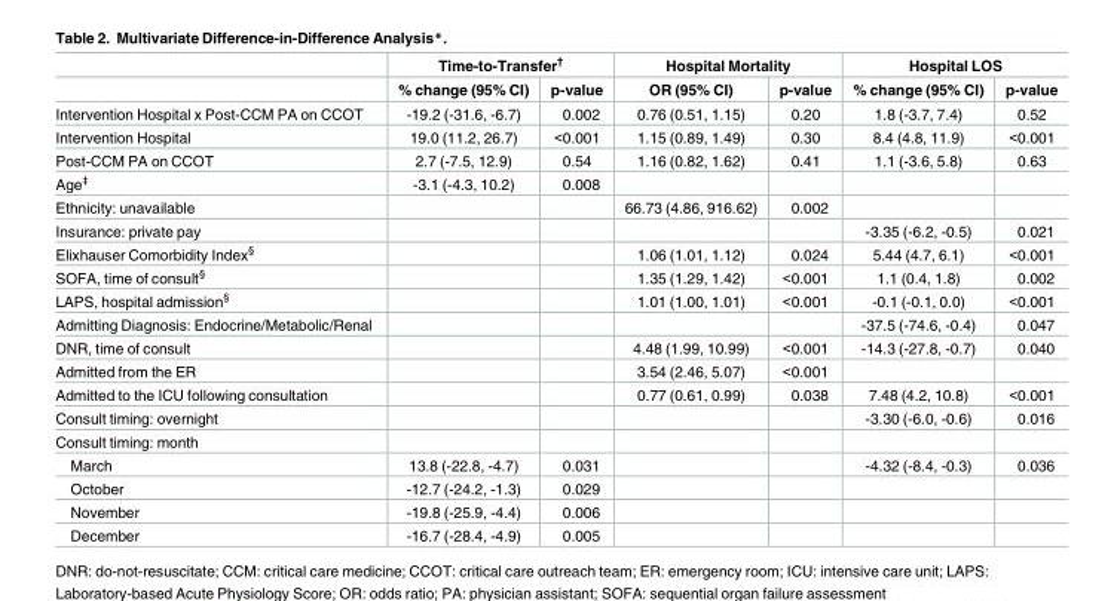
<table><thead><tr><td rowspan="2"></td><td colspan="2">Time-to-Transfer<sup>†</sup></td><td colspan="2">Hospital Mortality</td><td colspan="2">Hospital LOS</td></tr><tr><td>% change (95% CI)</td><td>p-value</td><td>OR (95% CI)</td><td>p-value</td><td>% change (95% CI)</td><td>p-value</td></tr></thead><tbody><tr><td>Intervention Hospital x Post-CCM PA on CCOT</td><td>-19.2 (-31.6, -6.7)</td><td>0.002</td><td>0.76 (0.51, 1.15)</td><td>0.20</td><td>1.8 (-3.7, 7.4)</td><td>0.52</td></tr><tr><td>Intervention Hospital</td><td>19.0 (11.2, 26.7)</td><td>&lt;0.001</td><td>1.15 (0.89, 1.49)</td><td>0.30</td><td>8.4 (4.8, 11.9)</td><td>&lt;0.001</td></tr><tr><td>Post-CCM PA on CCOT</td><td>2.7 (-7.5, 12.9)</td><td>0.54</td><td>1.16 (0.82, 1.62)</td><td>0.41</td><td>1.1 (-3.6, 5.8)</td><td>0.63</td></tr><tr><td>Age<sup>‡</sup></td><td>-3.1 (-4.3, 10.2)</td><td>0.008</td><td></td><td></td><td></td><td></td></tr><tr><td>Ethnicity: unavailable</td><td></td><td></td><td>66.73 (4.86, 916.62)</td><td>0.002</td><td></td><td></td></tr><tr><td>Insurance: private pay</td><td></td><td></td><td></td><td></td><td>-3.35 (-6.2, -0.5)</td><td>0.021</td></tr><tr><td>Elixhauser Comorbidity Index<sup>§</sup></td><td></td><td></td><td>1.06 (1.01, 1.12)</td><td>0.024</td><td>5.44 (4.7, 6.1)</td><td>&lt;0.001</td></tr><tr><td>SOFA, time of consult<sup>§</sup></td><td></td><td></td><td>1.35 (1.29, 1.42)</td><td>&lt;0.001</td><td>1.1 (0.4, 1.8)</td><td>0.002</td></tr><tr><td>LAPS, hospital admission<sup>§</sup></td><td></td><td></td><td>1.01 (1.00, 1.01)</td><td>&lt;0.001</td><td>-0.1 (-0.1, 0.0)</td><td>&lt;0.001</td></tr><tr><td>Admitting Diagnosis: Endocrine/Metabolic/Renal</td><td></td><td></td><td></td><td></td><td>-37.5 (-74.6, -0.4)</td><td>0.047</td></tr><tr><td>DNR, time of consult</td><td></td><td></td><td>4.48 (1.99, 10.99)</td><td>&lt;0.001</td><td>-14.3 (-27.8, -0.7)</td><td>0.040</td></tr><tr><td>Admitted from the ER</td><td></td><td></td><td>3.54 (2.46, 5.07)</td><td>&lt;0.001</td><td></td><td></td></tr><tr><td>Admitted to the ICU following consultation</td><td></td><td></td><td>0.77 (0.61, 0.99)</td><td>0.038</td><td>7.48 (4.2, 10.8)</td><td>&lt;0.001</td></tr><tr><td>Consult timing: overnight</td><td></td><td></td><td></td><td></td><td>-3.30 (-6.0, -0.6)</td><td>0.016</td></tr><tr><td colspan="7">Consult timing: month</td></tr><tr><td>March</td><td>13.8 (-22.8, -4.7)</td><td>0.031</td><td></td><td></td><td>-4.32 (-8.4, -0.3)</td><td>0.036</td></tr><tr><td>October</td><td>-12.7 (-24.2, -1.3)</td><td>0.029</td><td></td><td></td><td></td><td></td></tr><tr><td>November</td><td>-19.8 (-25.9, -4.4)</td><td>0.006</td><td></td><td></td><td></td><td></td></tr><tr><td>December</td><td>-16.7 (-28.4, -4.9)</td><td>0.005</td><td></td><td></td><td></td><td></td></tr></tbody></table>